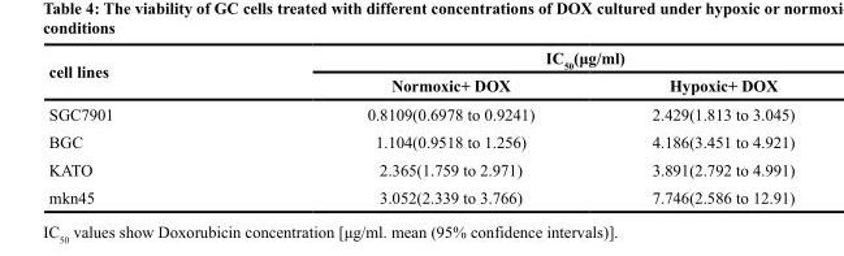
<table><thead><tr><td rowspan="2">cell lines</td><td colspan="2">IC<sub>50</sub>(μg/ml)</td></tr><tr><td>Normoxic+ DOX</td><td>Hypoxic+ DOX</td></tr></thead><tbody><tr><td>SGC7901</td><td>0.8109(0.6978 to 0.9241)</td><td>2.429(1.813 to 3.045)</td></tr><tr><td>BGC</td><td>1.104(0.9518 to 1.256)</td><td>4.186(3.451 to 4.921)</td></tr><tr><td>KATO</td><td>2.365(1.759 to 2.971)</td><td>3.891(2.792 to 4.991)</td></tr><tr><td>mkn45</td><td>3.052(2.339 to 3.766)</td><td>7.746(2.586 to 12.91)</td></tr></tbody></table>